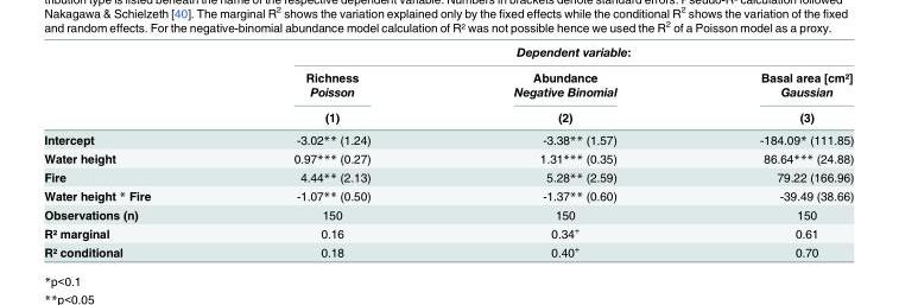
<table><thead><tr><td rowspan="4"></td><td colspan="3">Dependent variable:</td></tr><tr><td rowspan="3">Richness Poisson (1)</td><td rowspan="3">Abundance Negative Binomial (2)</td><td rowspan="3">Basal area [cm²] Gaussian (3)</td></tr><tr></tr><tr></tr></thead><tbody><tr><td>Intercept</td><td>-3.02** (1.24)</td><td>-3.38** (1.57)</td><td>-184.09* (111.85)</td></tr><tr><td>Water height</td><td>0.97*** (0.27)</td><td>1.31*** (0.35)</td><td>86.64*** (24.88)</td></tr><tr><td>Fire</td><td>4.44** (2.13)</td><td>5.28** (2.59)</td><td>79.22 (166.96)</td></tr><tr><td>Water height * Fire</td><td>-1.07** (0.50)</td><td>-1.37** (0.60)</td><td>-39.49 (38.66)</td></tr><tr><td>Observations (n)</td><td>150</td><td>150</td><td>150</td></tr><tr><td>R² marginal</td><td>0.16</td><td>0.34<sup>+</sup></td><td>0.61</td></tr><tr><td>R² conditional</td><td>0.18</td><td>0.40<sup>+</sup></td><td>0.70</td></tr></tbody></table>